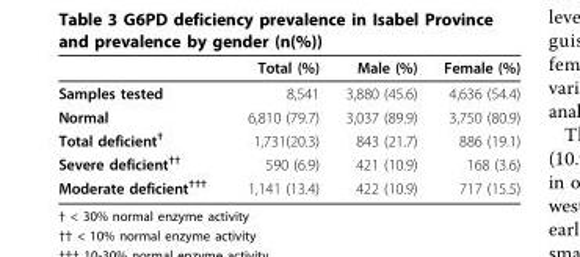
<table><thead><tr><td></td><td>Total (%)</td><td>Male (%)</td><td>Female (%)</td></tr></thead><tbody><tr><td>Samples tested</td><td>8,541</td><td>3,880 (45.6)</td><td>4,636 (54.4)</td></tr><tr><td>Normal</td><td>6,810 (79.7)</td><td>3,037 (89.9)</td><td>3,750 (80.9)</td></tr><tr><td>Total deficient<sup>†</sup></td><td>1,731(20.3)</td><td>843 (21.7)</td><td>886 (19.1)</td></tr><tr><td>Severe deficient<sup>††</sup></td><td>590 (6.9)</td><td>421 (10.9)</td><td>168 (3.6)</td></tr><tr><td>Moderate deficient<sup>†††</sup></td><td>1,141 (13.4)</td><td>422 (10.9)</td><td>717 (15.5)</td></tr></tbody></table>